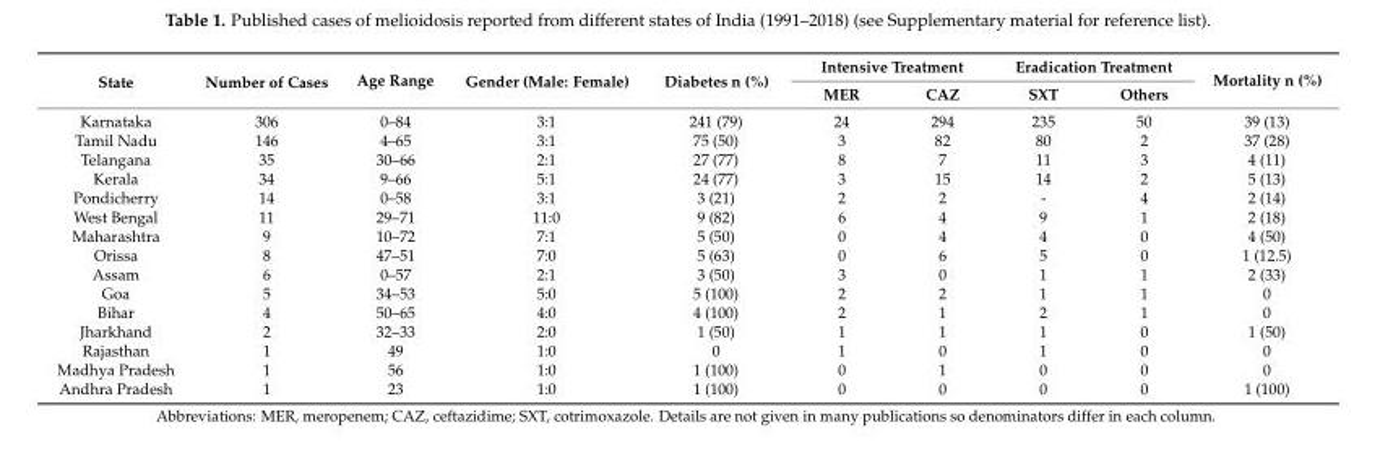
<table><thead><tr><td rowspan="2">State</td><td rowspan="2">Number of Cases</td><td rowspan="2">Age Range</td><td rowspan="2">Gender (Male: Female)</td><td rowspan="2">Diabetes n (%)</td><td colspan="2">Intensive Treatment</td><td colspan="2">Eradication Treatment</td><td rowspan="2">Mortality n (%)</td></tr><tr><td>MER</td><td>CAZ</td><td>SXT</td><td>Others</td></tr></thead><tbody><tr><td>Karnataka</td><td>306</td><td>0–84</td><td>3:1</td><td>241 (79)</td><td>24</td><td>294</td><td>235</td><td>50</td><td>39 (13)</td></tr><tr><td>Tamil Nadu</td><td>146</td><td>4–65</td><td>3:1</td><td>75 (50)</td><td>3</td><td>82</td><td>80</td><td>2</td><td>37 (28)</td></tr><tr><td>Telangana</td><td>35</td><td>30–66</td><td>2:1</td><td>27 (77)</td><td>8</td><td>7</td><td>11</td><td>3</td><td>4 (11)</td></tr><tr><td>Kerala</td><td>34</td><td>9–66</td><td>5:1</td><td>24 (77)</td><td>3</td><td>15</td><td>14</td><td>2</td><td>5 (13)</td></tr><tr><td>Pondicherry</td><td>14</td><td>0–58</td><td>3:1</td><td>3 (21)</td><td>2</td><td>2</td><td>-</td><td>4</td><td>2 (14)</td></tr><tr><td>West Bengal</td><td>11</td><td>29–71</td><td>11:0</td><td>9 (82)</td><td>6</td><td>4</td><td>9</td><td>1</td><td>2 (18)</td></tr><tr><td>Maharashtra</td><td>9</td><td>10–72</td><td>7:1</td><td>5 (50)</td><td>0</td><td>4</td><td>4</td><td>0</td><td>4 (50)</td></tr><tr><td>Orissa</td><td>8</td><td>47–51</td><td>7:0</td><td>5 (63)</td><td>0</td><td>6</td><td>5</td><td>0</td><td>1 (12.5)</td></tr><tr><td>Assam</td><td>6</td><td>0–57</td><td>2:1</td><td>3 (50)</td><td>3</td><td>0</td><td>1</td><td>1</td><td>2 (33)</td></tr><tr><td>Goa</td><td>5</td><td>34–53</td><td>5:0</td><td>5 (100)</td><td>2</td><td>2</td><td>1</td><td>1</td><td>0</td></tr><tr><td>Bihar</td><td>4</td><td>50–65</td><td>4:0</td><td>4 (100)</td><td>2</td><td>1</td><td>2</td><td>1</td><td>0</td></tr><tr><td>Jharkhand</td><td>2</td><td>32–33</td><td>2:0</td><td>1 (50)</td><td>1</td><td>1</td><td>1</td><td>0</td><td>1 (50)</td></tr><tr><td>Rajasthan</td><td>1</td><td>49</td><td>1:0</td><td>0</td><td>1</td><td>0</td><td>1</td><td>0</td><td>0</td></tr><tr><td>Madhya Pradesh</td><td>1</td><td>56</td><td>1:0</td><td>1 (100)</td><td>0</td><td>1</td><td>0</td><td>0</td><td>0</td></tr><tr><td>Andhra Pradesh</td><td>1</td><td>23</td><td>1:0</td><td>1 (100)</td><td>0</td><td>0</td><td>0</td><td>0</td><td>1 (100)</td></tr></tbody></table>